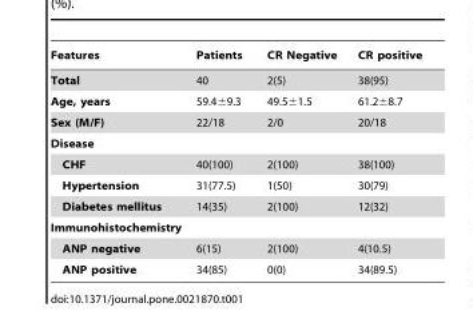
<table><thead><tr><td>Features</td><td>Patients</td><td>CR Negative</td><td>CR positive</td></tr></thead><tbody><tr><td>Total</td><td>40</td><td>2(5)</td><td>38(95)</td></tr><tr><td>Age, years</td><td>59.4±9.3</td><td>49.5±1.5</td><td>61.2±8.7</td></tr><tr><td>Sex (M/F)</td><td>22/18</td><td>2/0</td><td>20/18</td></tr><tr><td colspan="4">Disease</td></tr><tr><td>CHF</td><td>40(100)</td><td>2(100)</td><td>38(100)</td></tr><tr><td>Hypertension</td><td>31(77.5)</td><td>1(50)</td><td>30(79)</td></tr><tr><td>Diabetes mellitus</td><td>14(35)</td><td>2(100)</td><td>12(32)</td></tr><tr><td colspan="4">Immunohistochemistry</td></tr><tr><td>ANP negative</td><td>6(15)</td><td>2(100)</td><td>4(10.5)</td></tr><tr><td>ANP positive</td><td>34(85)</td><td>0(0)</td><td>34(89.5)</td></tr></tbody></table>